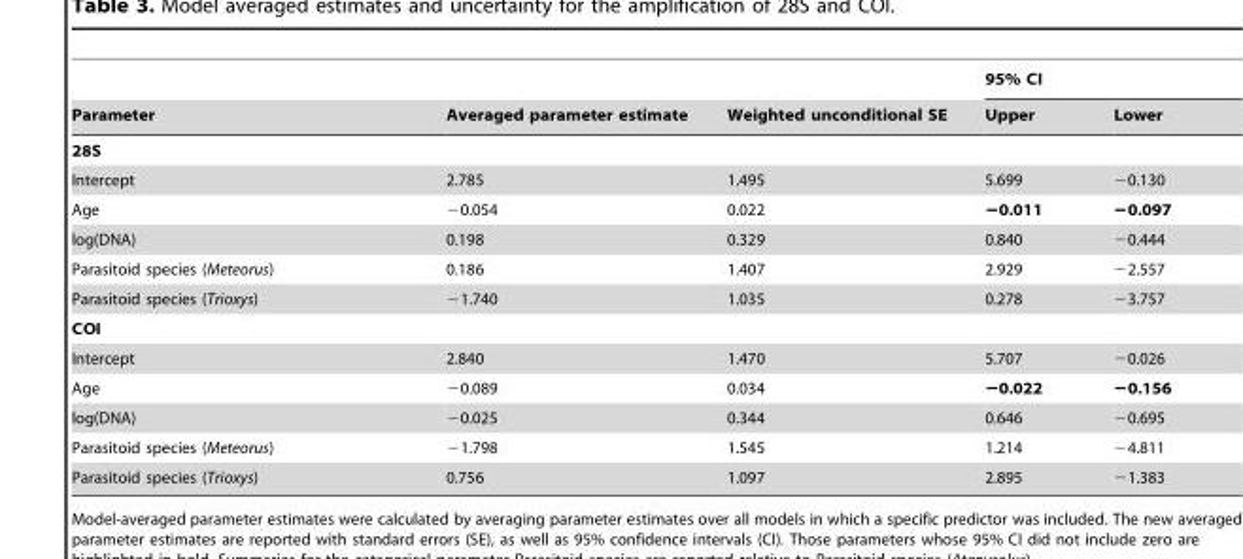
<table><thead><tr><td rowspan="2">Parameter</td><td rowspan="2">Averaged parameter estimate</td><td rowspan="2">Weighted unconditional SE</td><td colspan="2">95% CI</td></tr><tr><td>Upper</td><td>Lower</td></tr></thead><tbody><tr><td colspan="5">28S</td></tr><tr><td>Intercept</td><td>2.785</td><td>1.495</td><td>5.699</td><td>−0.130</td></tr><tr><td>Age</td><td>−0.054</td><td>0.022</td><td>−0.011</td><td>−0.097</td></tr><tr><td>log(DNA)</td><td>0.198</td><td>0.329</td><td>0.840</td><td>−0.444</td></tr><tr><td>Parasitoid species (Meteorus)</td><td>0.186</td><td>1.407</td><td>2.929</td><td>−2.557</td></tr><tr><td>Parasitoid species (Trioxys)</td><td>−1.740</td><td>1.035</td><td>0.278</td><td>−3.757</td></tr><tr><td colspan="5">COI</td></tr><tr><td>Intercept</td><td>2.840</td><td>1.470</td><td>5.707</td><td>−0.026</td></tr><tr><td>Age</td><td>−0.089</td><td>0.034</td><td>−0.022</td><td>−0.156</td></tr><tr><td>log(DNA)</td><td>−0.025</td><td>0.344</td><td>0.646</td><td>−0.695</td></tr><tr><td>Parasitoid species (Meteorus)</td><td>−1.798</td><td>1.545</td><td>1.214</td><td>−4.811</td></tr><tr><td>Parasitoid species (Trioxys)</td><td>0.756</td><td>1.097</td><td>2.895</td><td>−1.383</td></tr></tbody></table>